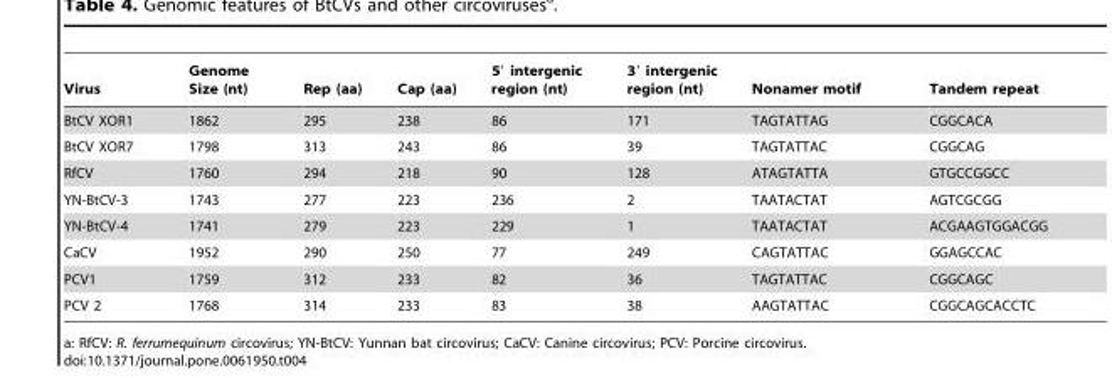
<table><thead><tr><td>Virus</td><td>Genome Size (nt)</td><td>Rep (aa)</td><td>Cap (aa)</td><td>5′ intergenic region (nt)</td><td>3′ intergenic region (nt)</td><td>Nonamer motif</td><td>Tandem repeat</td></tr></thead><tbody><tr><td>BtCV XOR1</td><td>1862</td><td>295</td><td>238</td><td>86</td><td>171</td><td>TAGTATTAG</td><td>CGGCACA</td></tr><tr><td>BtCV XOR7</td><td>1798</td><td>313</td><td>243</td><td>86</td><td>39</td><td>TAGTATTAC</td><td>CGGCAG</td></tr><tr><td>RfCV</td><td>1760</td><td>294</td><td>218</td><td>90</td><td>128</td><td>ATAGTATTA</td><td>GTGCCGGCC</td></tr><tr><td>YN-BtCV-3</td><td>1743</td><td>277</td><td>223</td><td>236</td><td>2</td><td>TAATACTAT</td><td>AGTCGCGG</td></tr><tr><td>YN-BtCV-4</td><td>1741</td><td>279</td><td>223</td><td>229</td><td>1</td><td>TAATACTAT</td><td>ACGAAGTGGACGG</td></tr><tr><td>CaCV</td><td>1952</td><td>290</td><td>250</td><td>77</td><td>249</td><td>CAGTATTAC</td><td>GGAGCCAC</td></tr><tr><td>PCV1</td><td>1759</td><td>312</td><td>233</td><td>82</td><td>36</td><td>TAGTATTAC</td><td>CGGCAGC</td></tr><tr><td>PCV 2</td><td>1768</td><td>314</td><td>233</td><td>83</td><td>38</td><td>AAGTATTAC</td><td>CGGCAGCACCTC</td></tr></tbody></table>